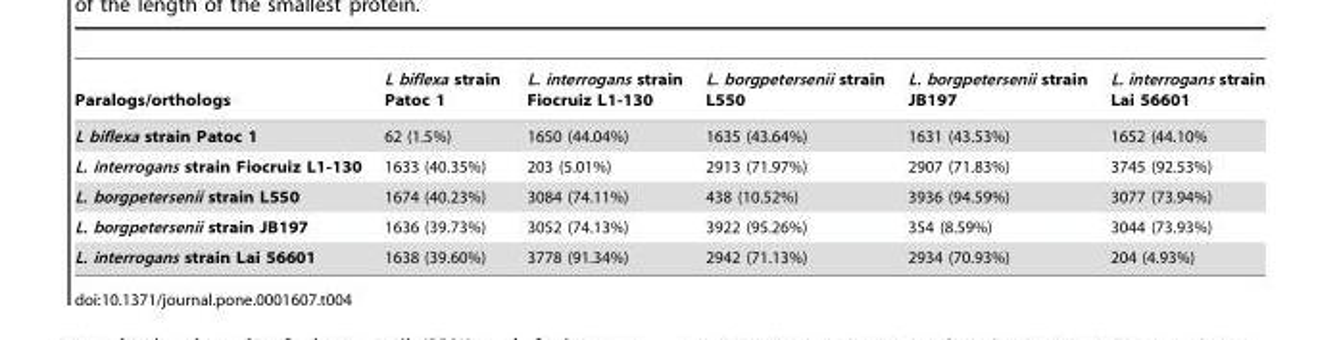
<table><thead><tr><td>Paralogs/orthologs</td><td>L biflexa strain Patoc 1</td><td>L. interrogans strain Fiocruiz L1-130</td><td>L. borgpetersenii strain L550</td><td>L. borgpetersenii strain JB197</td><td>L. interrogans strain Lai 56601</td></tr></thead><tbody><tr><td>L biflexa strain Patoc 1</td><td>62 (1.5%)</td><td>1650 (44.04%)</td><td>1635 (43.64%)</td><td>1631 (43.53%)</td><td>1652 (44.10%</td></tr><tr><td>L. interrogans strain Fiocruiz L1-130</td><td>1633 (40.35%)</td><td>203 (5.01%)</td><td>2913 (71.97%)</td><td>2907 (71.83%)</td><td>3745 (92.53%)</td></tr><tr><td>L. borgpetersenii strain L550</td><td>1674 (40.23%)</td><td>3084 (74.11%)</td><td>438 (10.52%)</td><td>3936 (94.59%)</td><td>3077 (73.94%)</td></tr><tr><td>L. borgpetersenii strain JB197</td><td>1636 (39.73%)</td><td>3052 (74.13%)</td><td>3922 (95.26%)</td><td>354 (8.59%)</td><td>3044 (73.93%)</td></tr><tr><td>L. interrogans strain Lai 56601</td><td>1638 (39.60%)</td><td>3778 (91.34%)</td><td>2942 (71.13%)</td><td>2934 (70.93%)</td><td>204 (4.93%)</td></tr></tbody></table>